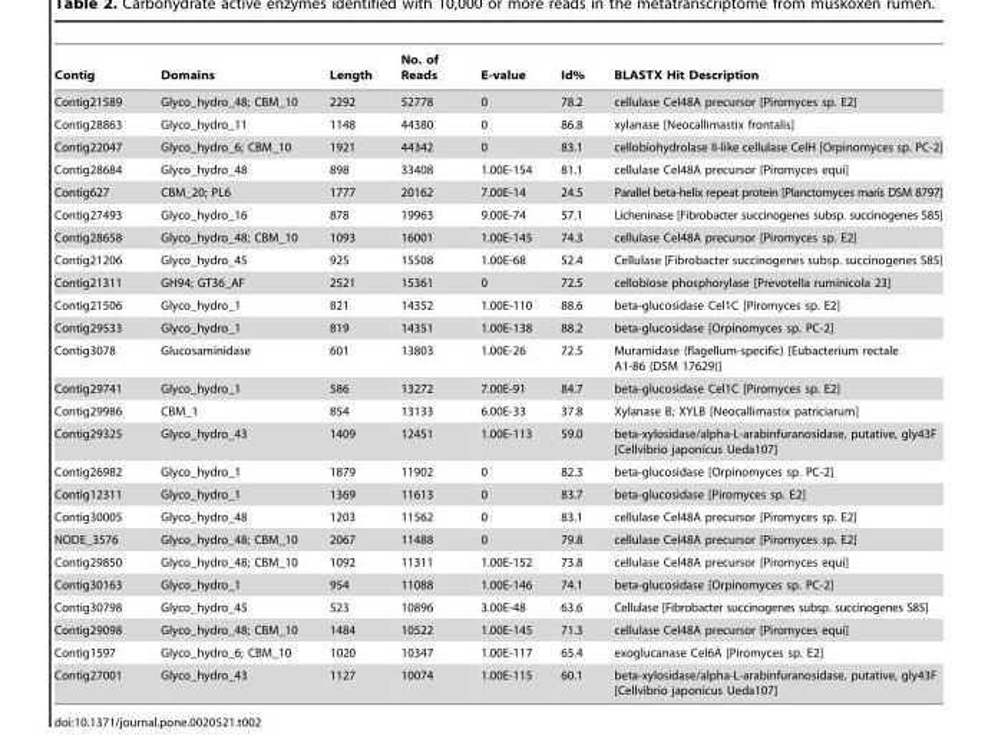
<table><thead><tr><td>Contig</td><td>Domains</td><td>Length</td><td>No. of Reads</td><td>E-value</td><td>Id%</td><td>BLASTX Hit Description</td></tr></thead><tbody><tr><td>Contig21589</td><td>Glyco_hydro_48; CBM_10</td><td>2292</td><td>52778</td><td>0</td><td>78.2</td><td>cellulase Cel48A precursor [Piromyces sp. E2]</td></tr><tr><td>Contig28863</td><td>Glyco_hydro_11</td><td>1148</td><td>44380</td><td>0</td><td>86.8</td><td>xylanase [Neocallimastix frontalis]</td></tr><tr><td>Contig22047</td><td>Glyco_hydro_6; CBM_10</td><td>1921</td><td>44342</td><td>0</td><td>83.1</td><td>cellobiohydrolase II-like cellulase CelH [Orpinomyces sp. PC-2]</td></tr><tr><td>Contig28684</td><td>Glyco_hydro_48</td><td>898</td><td>33408</td><td>1.00E-154</td><td>81.1</td><td>cellulase Cel48A precursor [Piromyces equi]</td></tr><tr><td>Contig627</td><td>CBM_20; PL6</td><td>1777</td><td>20162</td><td>7.00E-14</td><td>24.5</td><td>Parallel beta-helix repeat protein [Planctomyces maris DSM 8797]</td></tr><tr><td>Contig27493</td><td>Glyco_hydro_16</td><td>878</td><td>19963</td><td>9.00E-74</td><td>57.1</td><td>Licheninase [Fibrobacter succinogenes subsp. succinogenes S85]</td></tr><tr><td>Contig28658</td><td>Glyco_hydro_48; CBM_10</td><td>1093</td><td>16001</td><td>1.00E-145</td><td>74.3</td><td>cellulase Cel48A precursor [Piromyces sp. E2]</td></tr><tr><td>Contig21206</td><td>Glyco_hydro_45</td><td>925</td><td>15508</td><td>1.00E-68</td><td>52.4</td><td>Cellulase [Fibrobacter succinogenes subsp. succinogenes S85]</td></tr><tr><td>Contig21311</td><td>GH94; GT36_AF</td><td>2521</td><td>15361</td><td>0</td><td>72.5</td><td>cellobiose phosphorylase [Prevotella ruminicola 23]</td></tr><tr><td>Contig21506</td><td>Glyco_hydro_1</td><td>821</td><td>14352</td><td>1.00E-110</td><td>88.6</td><td>beta-glucosidase Cel1C [Piromyces sp. E2]</td></tr><tr><td>Contig29533</td><td>Glyco_hydro_1</td><td>819</td><td>14351</td><td>1.00E-138</td><td>88.2</td><td>beta-glucosidase [Orpinomyces sp. PC-2]</td></tr><tr><td>Contig3078</td><td>Glucosaminidase</td><td>601</td><td>13803</td><td>1.00E-26</td><td>72.5</td><td>Muramidase (flagellum-specific) [Eubacterium rectale A1-86 (DSM 17629)]</td></tr><tr><td>Contig29741</td><td>Glyco_hydro_1</td><td>586</td><td>13272</td><td>7.00E-91</td><td>84.7</td><td>beta-glucosidase Cel1C [Piromyces sp. E2]</td></tr><tr><td>Contig29986</td><td>CBM_1</td><td>854</td><td>13133</td><td>6.00E-33</td><td>37.8</td><td>Xylanase B; XYLB [Neocallimastix patriciarum]</td></tr><tr><td>Contig29325</td><td>Glyco_hydro_43</td><td>1409</td><td>12451</td><td>1.00E-113</td><td>59.0</td><td>beta-xylosidase/alpha-L-arabinfuranosidase, putative, gly43F [Cellvibrio japonicus Ueda107]</td></tr><tr><td>Contig26982</td><td>Glyco_hydro_1</td><td>1879</td><td>11902</td><td>0</td><td>82.3</td><td>beta-glucosidase [Orpinomyces sp. PC-2]</td></tr><tr><td>Contig12311</td><td>Glyco_hydro_1</td><td>1369</td><td>11613</td><td>0</td><td>83.7</td><td>beta-glucosidase [Piromyces sp. E2]</td></tr><tr><td>Contig30005</td><td>Glyco_hydro_48</td><td>1203</td><td>11562</td><td>0</td><td>83.1</td><td>cellulase Cel48A precursor [Piromyces sp. E2]</td></tr><tr><td>NODE_3576</td><td>Glyco_hydro_48; CBM_10</td><td>2067</td><td>11488</td><td>0</td><td>79.8</td><td>cellulase Cel48A precursor [Piromyces sp. E2]</td></tr><tr><td>Contig29850</td><td>Glyco_hydro_48; CBM_10</td><td>1092</td><td>11311</td><td>1.00E-152</td><td>73.8</td><td>cellulase Cel48A precursor [Piromyces equi]</td></tr><tr><td>Contig30163</td><td>Glyco_hydro_1</td><td>954</td><td>11088</td><td>1.00E-146</td><td>74.1</td><td>beta-glucosidase [Orpinomyces sp. PC-2]</td></tr><tr><td>Contig30798</td><td>Glyco_hydro_45</td><td>523</td><td>10896</td><td>3.00E-48</td><td>63.6</td><td>Cellulase [Fibrobacter succinogenes subsp. succinogenes S85]</td></tr><tr><td>Contig29098</td><td>Glyco_hydro_48; CBM_10</td><td>1484</td><td>10522</td><td>1.00E-145</td><td>71.3</td><td>cellulase Cel48A precursor [Piromyces equi]</td></tr><tr><td>Contig1597</td><td>Glyco_hydro_6; CBM_10</td><td>1020</td><td>10347</td><td>1.00E-117</td><td>65.4</td><td>exoglucanase Cel6A [Piromyces sp. E2]</td></tr><tr><td>Contig27001</td><td>Glyco_hydro_43</td><td>1127</td><td>10074</td><td>1.00E-115</td><td>60.1</td><td>beta-xylosidase/alpha-L-arabinfuranosidase, putative, gly43F [Cellvibrio japonicus Ueda107]</td></tr></tbody></table>